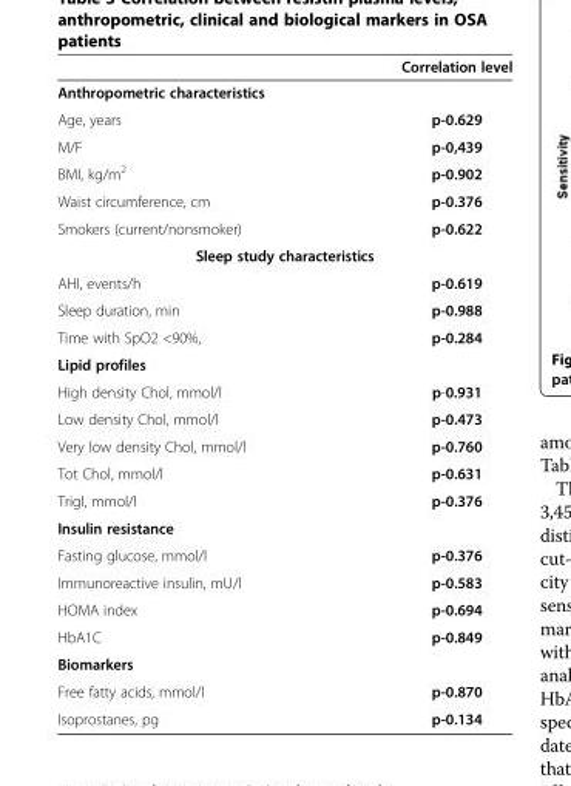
<table><thead><tr><td></td><td>Correlation level</td></tr></thead><tbody><tr><td colspan="2">Anthropometric characteristics</td></tr><tr><td>Age, years</td><td>p-0.629</td></tr><tr><td>M/F</td><td>p-0,439</td></tr><tr><td>BMI, kg/m<sup>2</sup></td><td>p-0.902</td></tr><tr><td>Waist circumference, cm</td><td>p-0.376</td></tr><tr><td>Smokers (current/nonsmoker)</td><td>p-0.622</td></tr><tr><td colspan="2">Sleep study characteristics</td></tr><tr><td>AHI, events/h</td><td>p-0.619</td></tr><tr><td>Sleep duration, min</td><td>p-0.988</td></tr><tr><td>Time with SpO2 &lt;90%,</td><td>p-0.284</td></tr><tr><td colspan="2">Lipid profiles</td></tr><tr><td>High density Chol, mmol/l</td><td>p-0.931</td></tr><tr><td>Low density Chol, mmol/l</td><td>p-0.473</td></tr><tr><td>Very low density Chol, mmol/l</td><td>p-0.760</td></tr><tr><td>Tot Chol, mmol/l</td><td>p-0.631</td></tr><tr><td>Trigl, mmol/l</td><td>p-0.376</td></tr><tr><td colspan="2">Insulin resistance</td></tr><tr><td>Fasting glucose, mmol/l</td><td>p-0.376</td></tr><tr><td>Immunoreactive insulin, mU/l</td><td>p-0.583</td></tr><tr><td>HOMA index</td><td>p-0.694</td></tr><tr><td>HbA1C</td><td>p-0.849</td></tr><tr><td colspan="2">Biomarkers</td></tr><tr><td>Free fatty acids, mmol/l</td><td>p-0.870</td></tr><tr><td>Isoprostanes, pg</td><td>p-0.134</td></tr></tbody></table>